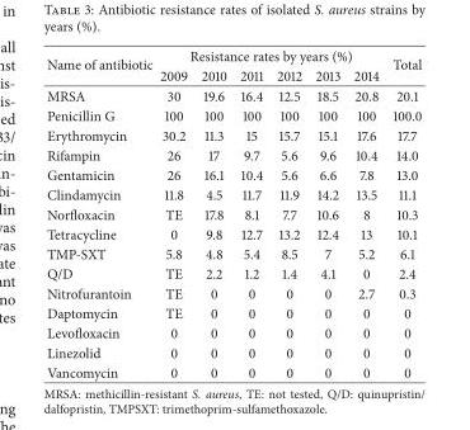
<table><thead><tr><td rowspan="2">Name of antibiotic</td><td colspan="6">Resistance rates by years (%)</td><td rowspan="2">Total</td></tr><tr><td>2009</td><td>2010</td><td>2011</td><td>2012</td><td>2013</td><td>2014</td></tr></thead><tbody><tr><td>MRSA</td><td>30</td><td>19.6</td><td>16.4</td><td>12.5</td><td>18.5</td><td>20.8</td><td>20.1</td></tr><tr><td>Penicillin G</td><td>100</td><td>100</td><td>100</td><td>100</td><td>100</td><td>100</td><td>100.0</td></tr><tr><td>Erythromycin</td><td>30.2</td><td>11.3</td><td>15</td><td>15.7</td><td>15.1</td><td>17.6</td><td>17.7</td></tr><tr><td>Rifampin</td><td>26</td><td>17</td><td>9.7</td><td>5.6</td><td>9.6</td><td>10.4</td><td>14.0</td></tr><tr><td>Gentamicin</td><td>26</td><td>16.1</td><td>10.4</td><td>5.6</td><td>6.6</td><td>7.8</td><td>13.0</td></tr><tr><td>Clindamycin</td><td>11.8</td><td>4.5</td><td>11.7</td><td>11.9</td><td>14.2</td><td>13.5</td><td>11.1</td></tr><tr><td>Norfloxacin</td><td>TE</td><td>17.8</td><td>8.1</td><td>7.7</td><td>10.6</td><td>8</td><td>10.3</td></tr><tr><td>Tetracycline</td><td>0</td><td>9.8</td><td>12.7</td><td>13.2</td><td>12.4</td><td>13</td><td>10.1</td></tr><tr><td>TMP-SXT</td><td>5.8</td><td>4.8</td><td>5.4</td><td>8.5</td><td>7</td><td>5.2</td><td>6.1</td></tr><tr><td>Q/D</td><td>TE</td><td>2.2</td><td>1.2</td><td>1.4</td><td>4.1</td><td>0</td><td>2.4</td></tr><tr><td>Nitrofurantoin</td><td>TE</td><td>0</td><td>0</td><td>0</td><td>0</td><td>2.7</td><td>0.3</td></tr><tr><td>Daptomycin</td><td>TE</td><td>0</td><td>0</td><td>0</td><td>0</td><td>0</td><td>0</td></tr><tr><td>Levofloxacin</td><td>0</td><td>0</td><td>0</td><td>0</td><td>0</td><td>0</td><td>0</td></tr><tr><td>Linezolid</td><td>0</td><td>0</td><td>0</td><td>0</td><td>0</td><td>0</td><td>0</td></tr><tr><td>Vancomycin</td><td>0</td><td>0</td><td>0</td><td>0</td><td>0</td><td>0</td><td>0</td></tr></tbody></table>